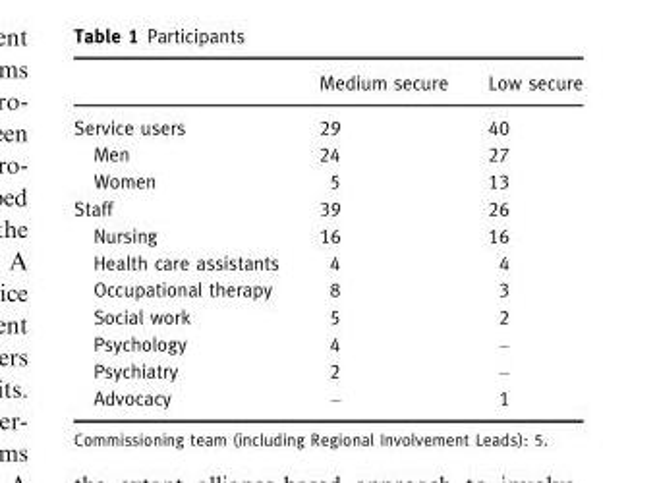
<table><thead><tr><td></td><td>Medium secure</td><td>Low secure</td></tr></thead><tbody><tr><td>Service users</td><td>29</td><td>40</td></tr><tr><td>Men</td><td>24</td><td>27</td></tr><tr><td>Women</td><td>5</td><td>13</td></tr><tr><td>Staff</td><td>39</td><td>26</td></tr><tr><td>Nursing</td><td>16</td><td>16</td></tr><tr><td>Health care assistants</td><td>4</td><td>4</td></tr><tr><td>Occupational therapy</td><td>8</td><td>3</td></tr><tr><td>Social work</td><td>5</td><td>2</td></tr><tr><td>Psychology</td><td>4</td><td>–</td></tr><tr><td>Psychiatry</td><td>2</td><td>–</td></tr><tr><td>Advocacy</td><td>–</td><td>1</td></tr></tbody></table>